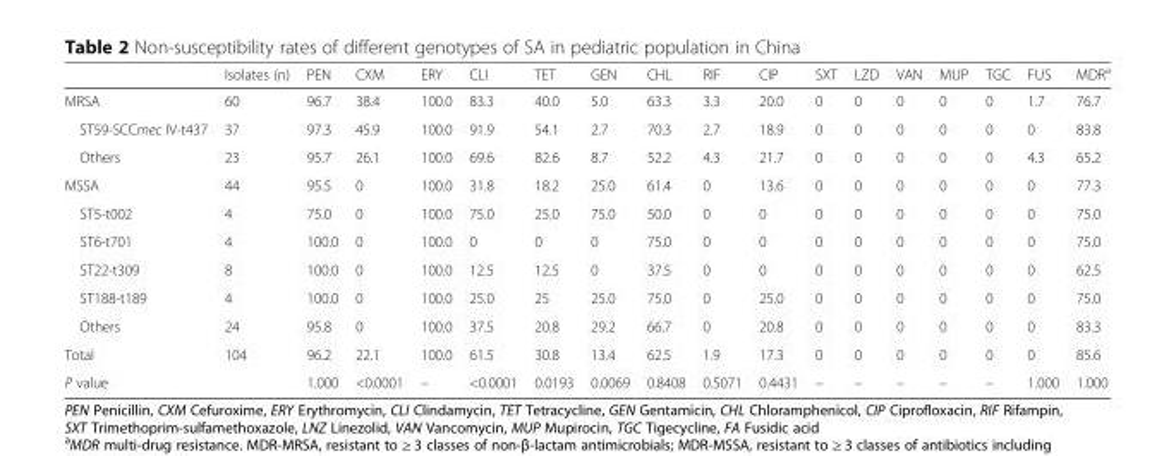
<table><thead><tr><td></td><td>Isolates (n)</td><td>PEN</td><td>CXM</td><td>ERY</td><td>CLI</td><td>TET</td><td>GEN</td><td>CHL</td><td>RIF</td><td>CIP</td><td>SXT</td><td>LZD</td><td>VAN</td><td>MUP</td><td>TGC</td><td>FUS</td><td>MDR<sup>a</sup></td></tr></thead><tbody><tr><td>MRSA</td><td>60</td><td>96.7</td><td>38.4</td><td>100.0</td><td>83.3</td><td>40.0</td><td>5.0</td><td>63.3</td><td>3.3</td><td>20.0</td><td>0</td><td>0</td><td>0</td><td>0</td><td>0</td><td>1.7</td><td>76.7</td></tr><tr><td>ST59-SCCmec IV-t437</td><td>37</td><td>97.3</td><td>45.9</td><td>100.0</td><td>91.9</td><td>54.1</td><td>2.7</td><td>70.3</td><td>2.7</td><td>18.9</td><td>0</td><td>0</td><td>0</td><td>0</td><td>0</td><td>0</td><td>83.8</td></tr><tr><td>Others</td><td>23</td><td>95.7</td><td>26.1</td><td>100.0</td><td>69.6</td><td>82.6</td><td>8.7</td><td>52.2</td><td>4.3</td><td>21.7</td><td>0</td><td>0</td><td>0</td><td>0</td><td>0</td><td>4.3</td><td>65.2</td></tr><tr><td>MSSA</td><td>44</td><td>95.5</td><td>0</td><td>100.0</td><td>31.8</td><td>18.2</td><td>25.0</td><td>61.4</td><td>0</td><td>13.6</td><td>0</td><td>0</td><td>0</td><td>0</td><td>0</td><td>0</td><td>77.3</td></tr><tr><td>ST5-t002</td><td>4</td><td>75.0</td><td>0</td><td>100.0</td><td>75.0</td><td>25.0</td><td>75.0</td><td>50.0</td><td>0</td><td>0</td><td>0</td><td>0</td><td>0</td><td>0</td><td>0</td><td>0</td><td>75.0</td></tr><tr><td>ST6-t701</td><td>4</td><td>100.0</td><td>0</td><td>100.0</td><td>0</td><td>0</td><td>0</td><td>75.0</td><td>0</td><td>0</td><td>0</td><td>0</td><td>0</td><td>0</td><td>0</td><td>0</td><td>75.0</td></tr><tr><td>ST22-t309</td><td>8</td><td>100.0</td><td>0</td><td>100.0</td><td>12.5</td><td>12.5</td><td>0</td><td>37.5</td><td>0</td><td>0</td><td>0</td><td>0</td><td>0</td><td>0</td><td>0</td><td>0</td><td>62.5</td></tr><tr><td>ST188-t189</td><td>4</td><td>100.0</td><td>0</td><td>100.0</td><td>25.0</td><td>25</td><td>25.0</td><td>75.0</td><td>0</td><td>25.0</td><td>0</td><td>0</td><td>0</td><td>0</td><td>0</td><td>0</td><td>75.0</td></tr><tr><td>Others</td><td>24</td><td>95.8</td><td>0</td><td>100.0</td><td>37.5</td><td>20.8</td><td>29.2</td><td>66.7</td><td>0</td><td>20.8</td><td>0</td><td>0</td><td>0</td><td>0</td><td>0</td><td>0</td><td>83.3</td></tr><tr><td>Total</td><td>104</td><td>96.2</td><td>22.1</td><td>100.0</td><td>61.5</td><td>30.8</td><td>13.4</td><td>62.5</td><td>1.9</td><td>17.3</td><td>0</td><td>0</td><td>0</td><td>0</td><td>0</td><td>0</td><td>85.6</td></tr><tr><td>P value</td><td></td><td>1.000</td><td>&lt;0.0001</td><td>–</td><td>&lt;0.0001</td><td>0.0193</td><td>0.0069</td><td>0.8408</td><td>0.5071</td><td>0.4431</td><td>–</td><td>–</td><td>–</td><td>–</td><td>–</td><td>1.000</td><td>1.000</td></tr></tbody></table>